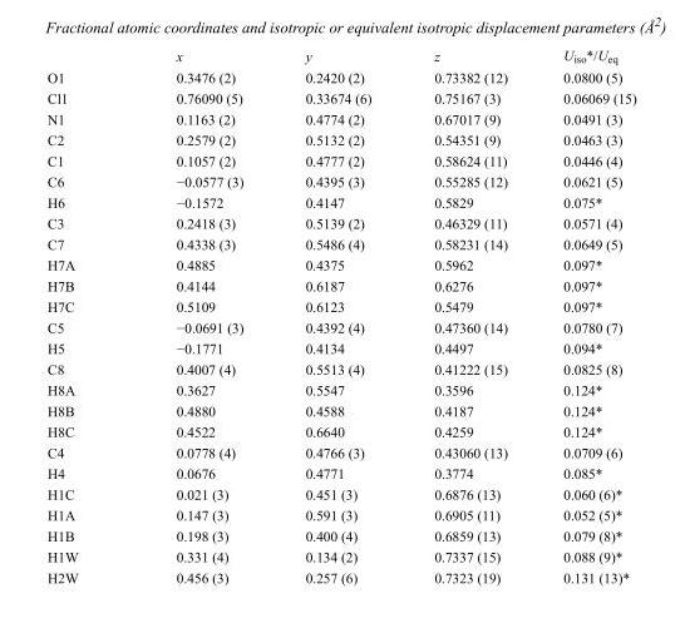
<table><thead><tr><td></td><td>x</td><td>y</td><td>z</td><td>U<sub>iso</sub>*/U<sub>eq</sub></td></tr></thead><tbody><tr><td>O1</td><td>0.3476 (2)</td><td>0.2420 (2)</td><td>0.73382 (12)</td><td>0.0800 (5)</td></tr><tr><td>Cl1</td><td>0.76090 (5)</td><td>0.33674 (6)</td><td>0.75167 (3)</td><td>0.06069 (15)</td></tr><tr><td>N1</td><td>0.1163 (2)</td><td>0.4774 (2)</td><td>0.67017 (9)</td><td>0.0491 (3)</td></tr><tr><td>C2</td><td>0.2579 (2)</td><td>0.5132 (2)</td><td>0.54351 (9)</td><td>0.0463 (3)</td></tr><tr><td>C1</td><td>0.1057 (2)</td><td>0.4777 (2)</td><td>0.58624 (11)</td><td>0.0446 (4)</td></tr><tr><td>C6</td><td>−0.0577 (3)</td><td>0.4395 (3)</td><td>0.55285 (12)</td><td>0.0621 (5)</td></tr><tr><td>H6</td><td>−0.1572</td><td>0.4147</td><td>0.5829</td><td>0.075*</td></tr><tr><td>C3</td><td>0.2418 (3)</td><td>0.5139 (2)</td><td>0.46329 (11)</td><td>0.0571 (4)</td></tr><tr><td>C7</td><td>0.4338 (3)</td><td>0.5486 (4)</td><td>0.58231 (14)</td><td>0.0649 (5)</td></tr><tr><td>H7A</td><td>0.4885</td><td>0.4375</td><td>0.5962</td><td>0.097*</td></tr><tr><td>H7B</td><td>0.4144</td><td>0.6187</td><td>0.6276</td><td>0.097*</td></tr><tr><td>H7C</td><td>0.5109</td><td>0.6123</td><td>0.5479</td><td>0.097*</td></tr><tr><td>C5</td><td>−0.0691 (3)</td><td>0.4392 (4)</td><td>0.47360 (14)</td><td>0.0780 (7)</td></tr><tr><td>H5</td><td>−0.1771</td><td>0.4134</td><td>0.4497</td><td>0.094*</td></tr><tr><td>C8</td><td>0.4007 (4)</td><td>0.5513 (4)</td><td>0.41222 (15)</td><td>0.0825 (8)</td></tr><tr><td>H8A</td><td>0.3627</td><td>0.5547</td><td>0.3596</td><td>0.124*</td></tr><tr><td>H8B</td><td>0.4880</td><td>0.4588</td><td>0.4187</td><td>0.124*</td></tr><tr><td>H8C</td><td>0.4522</td><td>0.6640</td><td>0.4259</td><td>0.124*</td></tr><tr><td>C4</td><td>0.0778 (4)</td><td>0.4766 (3)</td><td>0.43060 (13)</td><td>0.0709 (6)</td></tr><tr><td>H4</td><td>0.0676</td><td>0.4771</td><td>0.3774</td><td>0.085*</td></tr><tr><td>H1C</td><td>0.021 (3)</td><td>0.451 (3)</td><td>0.6876 (13)</td><td>0.060 (6)*</td></tr><tr><td>H1A</td><td>0.147 (3)</td><td>0.591 (3)</td><td>0.6905 (11)</td><td>0.052 (5)*</td></tr><tr><td>H1B</td><td>0.198 (3)</td><td>0.400 (4)</td><td>0.6859 (13)</td><td>0.079 (8)*</td></tr><tr><td>H1W</td><td>0.331 (4)</td><td>0.134 (2)</td><td>0.7337 (15)</td><td>0.088 (9)*</td></tr><tr><td>H2W</td><td>0.456 (3)</td><td>0.257 (6)</td><td>0.7323 (19)</td><td>0.131 (13)*</td></tr></tbody></table>